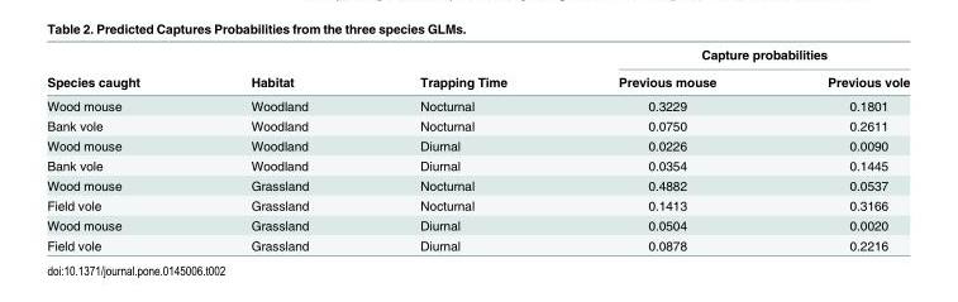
<table><thead><tr><td rowspan="2">Species caught</td><td rowspan="2">Habitat</td><td rowspan="2">Trapping Time</td><td colspan="2">Capture probabilities</td></tr><tr><td>Previous mouse</td><td>Previous vole</td></tr></thead><tbody><tr><td>Wood mouse</td><td>Woodland</td><td>Nocturnal</td><td>0.3229</td><td>0.1801</td></tr><tr><td>Bank vole</td><td>Woodland</td><td>Nocturnal</td><td>0.0750</td><td>0.2611</td></tr><tr><td>Wood mouse</td><td>Woodland</td><td>Diurnal</td><td>0.0226</td><td>0.0090</td></tr><tr><td>Bank vole</td><td>Woodland</td><td>Diurnal</td><td>0.0354</td><td>0.1445</td></tr><tr><td>Wood mouse</td><td>Grassland</td><td>Nocturnal</td><td>0.4882</td><td>0.0537</td></tr><tr><td>Field vole</td><td>Grassland</td><td>Nocturnal</td><td>0.1413</td><td>0.3166</td></tr><tr><td>Wood mouse</td><td>Grassland</td><td>Diurnal</td><td>0.0504</td><td>0.0020</td></tr><tr><td>Field vole</td><td>Grassland</td><td>Diurnal</td><td>0.0878</td><td>0.2216</td></tr></tbody></table>